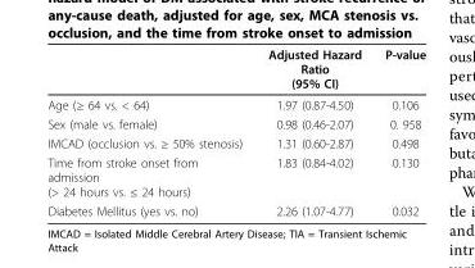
<table><thead><tr><td></td><td>Adjusted Hazard Ratio (95% CI)</td><td>P-value</td></tr></thead><tbody><tr><td>Age (≥ 64 vs. &lt; 64)</td><td>1.97 (0.87-4.50)</td><td>0.106</td></tr><tr><td>Sex (male vs. female)</td><td>0.98 (0.46-2.07)</td><td>0. 958</td></tr><tr><td>IMCAD (occlusion vs. ≥ 50% stenosis)</td><td>1.31 (0.60-2.87)</td><td>0.498</td></tr><tr><td>Time from stroke onset from admission (&gt; 24 hours vs. ≤ 24 hours)</td><td>1.83 (0.84-4.02)</td><td>0.130</td></tr><tr><td>Diabetes Mellitus (yes vs. no)</td><td>2.26 (1.07-4.77)</td><td>0.032</td></tr></tbody></table>